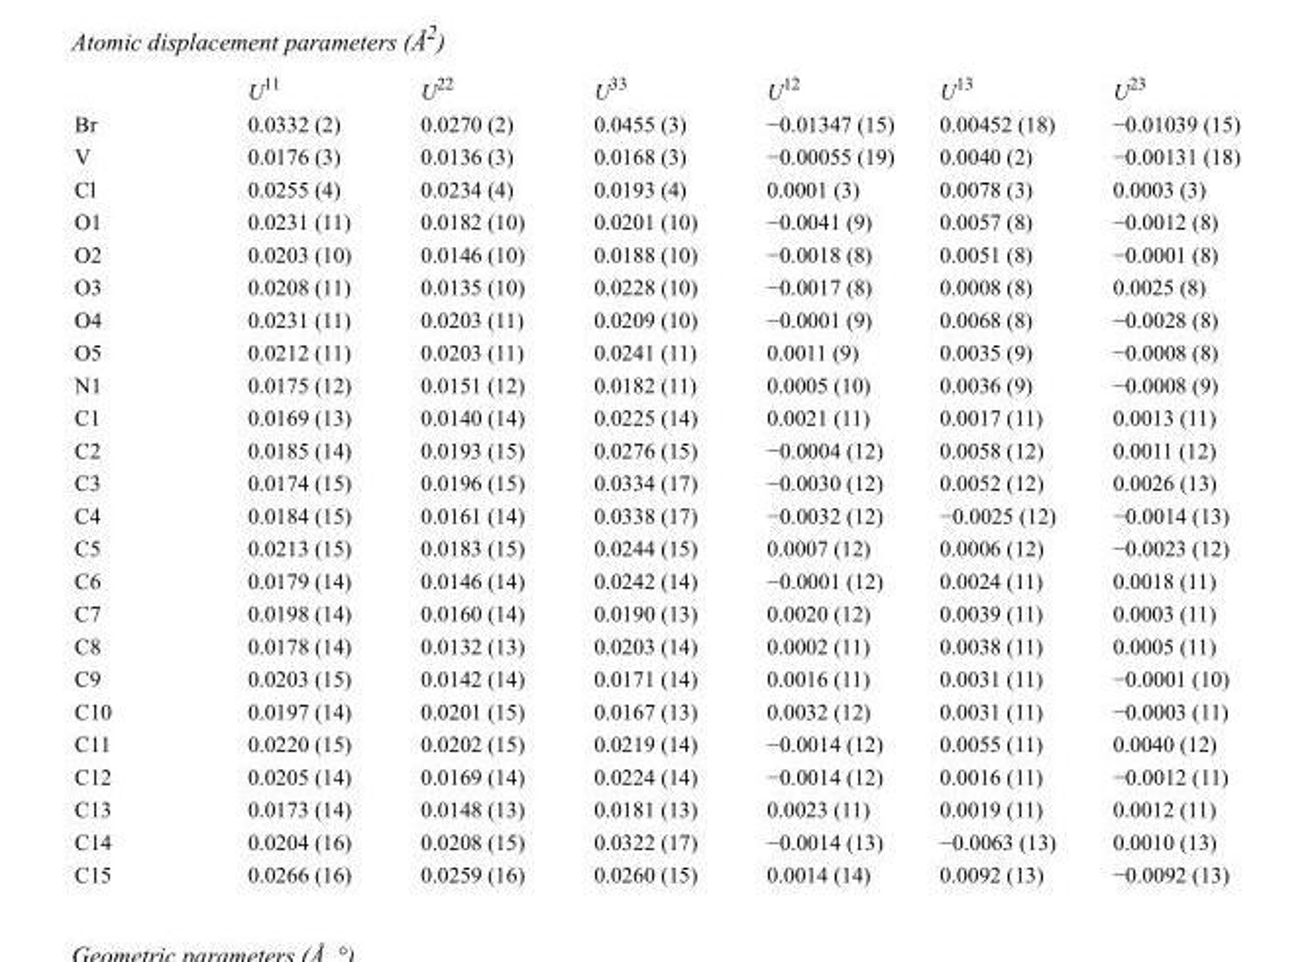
<table><thead><tr><td></td><td>U<sup>11</sup></td><td>U<sup>22</sup></td><td>U<sup>33</sup></td><td>U<sup>12</sup></td><td>U<sup>13</sup></td><td>U<sup>23</sup></td></tr></thead><tbody><tr><td>Br</td><td>0.0332 (2)</td><td>0.0270 (2)</td><td>0.0455 (3)</td><td>−0.01347 (15)</td><td>0.00452 (18)</td><td>−0.01039 (15)</td></tr><tr><td>V</td><td>0.0176 (3)</td><td>0.0136 (3)</td><td>0.0168 (3)</td><td>−0.00055 (19)</td><td>0.0040 (2)</td><td>−0.00131 (18)</td></tr><tr><td>Cl</td><td>0.0255 (4)</td><td>0.0234 (4)</td><td>0.0193 (4)</td><td>0.0001 (3)</td><td>0.0078 (3)</td><td>0.0003 (3)</td></tr><tr><td>O1</td><td>0.0231 (11)</td><td>0.0182 (10)</td><td>0.0201 (10)</td><td>−0.0041 (9)</td><td>0.0057 (8)</td><td>−0.0012 (8)</td></tr><tr><td>O2</td><td>0.0203 (10)</td><td>0.0146 (10)</td><td>0.0188 (10)</td><td>−0.0018 (8)</td><td>0.0051 (8)</td><td>−0.0001 (8)</td></tr><tr><td>O3</td><td>0.0208 (11)</td><td>0.0135 (10)</td><td>0.0228 (10)</td><td>−0.0017 (8)</td><td>0.0008 (8)</td><td>0.0025 (8)</td></tr><tr><td>O4</td><td>0.0231 (11)</td><td>0.0203 (11)</td><td>0.0209 (10)</td><td>−0.0001 (9)</td><td>0.0068 (8)</td><td>−0.0028 (8)</td></tr><tr><td>O5</td><td>0.0212 (11)</td><td>0.0203 (11)</td><td>0.0241 (11)</td><td>0.0011 (9)</td><td>0.0035 (9)</td><td>−0.0008 (8)</td></tr><tr><td>N1</td><td>0.0175 (12)</td><td>0.0151 (12)</td><td>0.0182 (11)</td><td>0.0005 (10)</td><td>0.0036 (9)</td><td>−0.0008 (9)</td></tr><tr><td>C1</td><td>0.0169 (13)</td><td>0.0140 (14)</td><td>0.0225 (14)</td><td>0.0021 (11)</td><td>0.0017 (11)</td><td>0.0013 (11)</td></tr><tr><td>C2</td><td>0.0185 (14)</td><td>0.0193 (15)</td><td>0.0276 (15)</td><td>−0.0004 (12)</td><td>0.0058 (12)</td><td>0.0011 (12)</td></tr><tr><td>C3</td><td>0.0174 (15)</td><td>0.0196 (15)</td><td>0.0334 (17)</td><td>−0.0030 (12)</td><td>0.0052 (12)</td><td>0.0026 (13)</td></tr><tr><td>C4</td><td>0.0184 (15)</td><td>0.0161 (14)</td><td>0.0338 (17)</td><td>−0.0032 (12)</td><td>−0.0025 (12)</td><td>−0.0014 (13)</td></tr><tr><td>C5</td><td>0.0213 (15)</td><td>0.0183 (15)</td><td>0.0244 (15)</td><td>0.0007 (12)</td><td>0.0006 (12)</td><td>−0.0023 (12)</td></tr><tr><td>C6</td><td>0.0179 (14)</td><td>0.0146 (14)</td><td>0.0242 (14)</td><td>−0.0001 (12)</td><td>0.0024 (11)</td><td>0.0018 (11)</td></tr><tr><td>C7</td><td>0.0198 (14)</td><td>0.0160 (14)</td><td>0.0190 (13)</td><td>0.0020 (12)</td><td>0.0039 (11)</td><td>0.0003 (11)</td></tr><tr><td>C8</td><td>0.0178 (14)</td><td>0.0132 (13)</td><td>0.0203 (14)</td><td>0.0002 (11)</td><td>0.0038 (11)</td><td>0.0005 (11)</td></tr><tr><td>C9</td><td>0.0203 (15)</td><td>0.0142 (14)</td><td>0.0171 (14)</td><td>0.0016 (11)</td><td>0.0031 (11)</td><td>−0.0001 (10)</td></tr><tr><td>C10</td><td>0.0197 (14)</td><td>0.0201 (15)</td><td>0.0167 (13)</td><td>0.0032 (12)</td><td>0.0031 (11)</td><td>−0.0003 (11)</td></tr><tr><td>C11</td><td>0.0220 (15)</td><td>0.0202 (15)</td><td>0.0219 (14)</td><td>−0.0014 (12)</td><td>0.0055 (11)</td><td>0.0040 (12)</td></tr><tr><td>C12</td><td>0.0205 (14)</td><td>0.0169 (14)</td><td>0.0224 (14)</td><td>−0.0014 (12)</td><td>0.0016 (11)</td><td>−0.0012 (11)</td></tr><tr><td>C13</td><td>0.0173 (14)</td><td>0.0148 (13)</td><td>0.0181 (13)</td><td>0.0023 (11)</td><td>0.0019 (11)</td><td>0.0012 (11)</td></tr><tr><td>C14</td><td>0.0204 (16)</td><td>0.0208 (15)</td><td>0.0322 (17)</td><td>−0.0014 (13)</td><td>−0.0063 (13)</td><td>0.0010 (13)</td></tr><tr><td>C15</td><td>0.0266 (16)</td><td>0.0259 (16)</td><td>0.0260 (15)</td><td>0.0014 (14)</td><td>0.0092 (13)</td><td>−0.0092 (13)</td></tr></tbody></table>